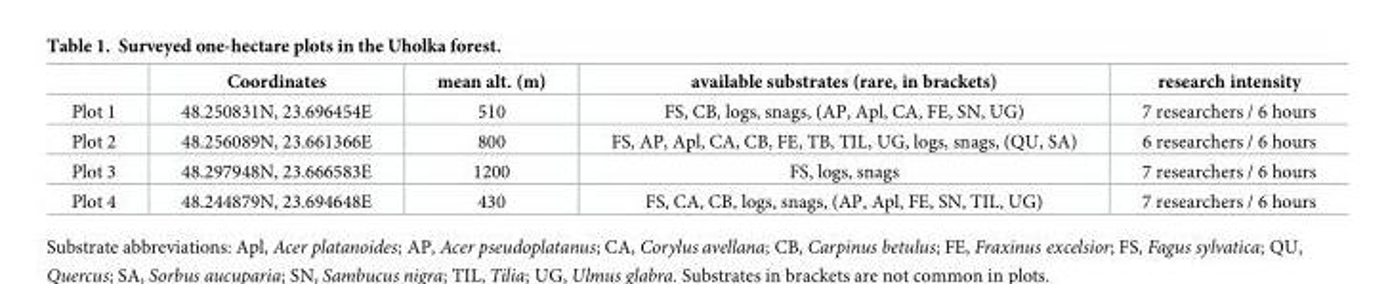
<table><thead><tr><td></td><td>Coordinates</td><td>mean alt. (m)</td><td>available substrates (rare, in brackets)</td><td>research intensity</td></tr></thead><tbody><tr><td>Plot 1</td><td>48.250831N, 23.696454E</td><td>510</td><td>FS, CB, logs, snags, (AP, Apl, CA, FE, SN, UG)</td><td>7 researchers / 6 hours</td></tr><tr><td>Plot 2</td><td>48.256089N, 23.661366E</td><td>800</td><td>FS, AP, Apl, CA, CB, FE, TB, TIL, UG, logs, snags, (QU, SA)</td><td>6 researchers / 6 hours</td></tr><tr><td>Plot 3</td><td>48.297948N, 23.666583E</td><td>1200</td><td>FS, logs, snags</td><td>7 researchers / 6 hours</td></tr><tr><td>Plot 4</td><td>48.244879N, 23.694648E</td><td>430</td><td>FS, CA, CB, logs, snags, (AP, Apl, FE, SN, TIL, UG)</td><td>7 researchers / 6 hours</td></tr></tbody></table>